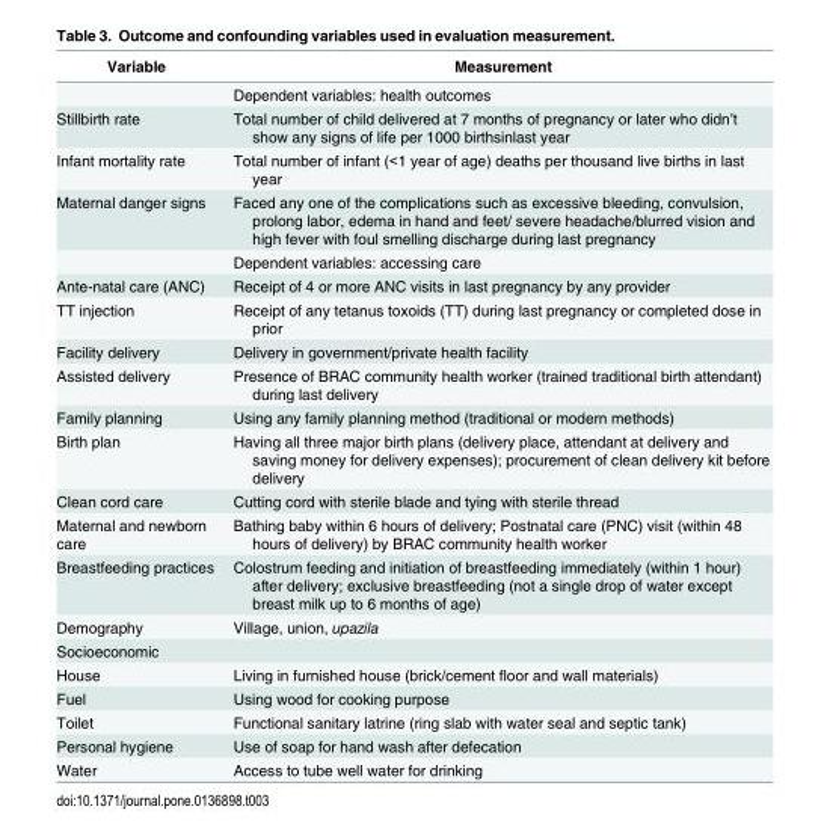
<table><thead><tr><td>Variable</td><td>Measurement</td></tr></thead><tbody><tr><td></td><td>Dependent variables: health outcomes</td></tr><tr><td>Stillbirth rate</td><td>Total number of child delivered at 7 months of pregnancy or later who didn’t show any signs of life per 1000 birthsinlast year</td></tr><tr><td>Infant mortality rate</td><td>Total number of infant (&lt;1 year of age) deaths per thousand live births in last year</td></tr><tr><td rowspan="2">Maternal danger signs</td><td>Faced any one of the complications such as excessive bleeding, convulsion, prolong labor, edema in hand and feet/ severe headache/blurred vision and high fever with foul smelling discharge during last pregnancy</td></tr><tr><td>Dependent variables: accessing care</td></tr><tr><td>Ante-natal care (ANC)</td><td>Receipt of 4 or more ANC visits in last pregnancy by any provider</td></tr><tr><td>TT injection</td><td>Receipt of any tetanus toxoids (TT) during last pregnancy or completed dose in prior</td></tr><tr><td>Facility delivery</td><td>Delivery in government/private health facility</td></tr><tr><td>Assisted delivery</td><td>Presence of BRAC community health worker (trained traditional birth attendant) during last delivery</td></tr><tr><td>Family planning</td><td>Using any family planning method (traditional or modern methods)</td></tr><tr><td>Birth plan</td><td>Having all three major birth plans (delivery place, attendant at delivery and saving money for delivery expenses); procurement of clean delivery kit before delivery</td></tr><tr><td>Clean cord care</td><td>Cutting cord with sterile blade and tying with sterile thread</td></tr><tr><td>Maternal and newborn care</td><td>Bathing baby within 6 hours of delivery; Postnatal care (PNC) visit (within 48 hours of delivery) by BRAC community health worker</td></tr><tr><td>Breastfeeding practices</td><td>Colostrum feeding and initiation of breastfeeding immediately (within 1 hour) after delivery; exclusive breastfeeding (not a single drop of water except breast milk up to 6 months of age)</td></tr><tr><td>Demography</td><td>Village, union, upazila</td></tr><tr><td colspan="2">Socioeconomic</td></tr><tr><td>House</td><td>Living in furnished house (brick/cement floor and wall materials)</td></tr><tr><td>Fuel</td><td>Using wood for cooking purpose</td></tr><tr><td>Toilet</td><td>Functional sanitary latrine (ring slab with water seal and septic tank)</td></tr><tr><td>Personal hygiene</td><td>Use of soap for hand wash after defecation</td></tr><tr><td>Water</td><td>Access to tube well water for drinking</td></tr></tbody></table>